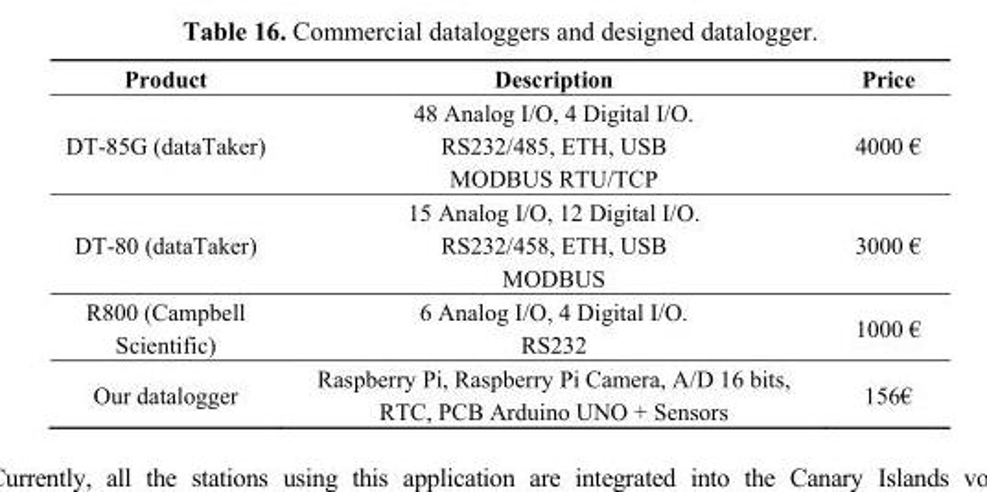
<table><thead><tr><td>Product</td><td>Description</td><td>Price</td></tr></thead><tbody><tr><td>DT-85G (dataTaker)</td><td>48 Analog I/O, 4 Digital I/O. RS232/485, ETH, USB MODBUS RTU/TCP</td><td>4000 €</td></tr><tr><td>DT-80 (dataTaker)</td><td>15 Analog I/O, 12 Digital I/O. RS232/458, ETH, USB MODBUS</td><td>3000 €</td></tr><tr><td>R800 (Campbell Scientific)</td><td>6 Analog I/O, 4 Digital I/O. RS232</td><td>1000 €</td></tr><tr><td>Our datalogger</td><td>Raspberry Pi, Raspberry Pi Camera, A/D 16 bits, RTC, PCB Arduino UNO + Sensors</td><td>156€</td></tr></tbody></table>